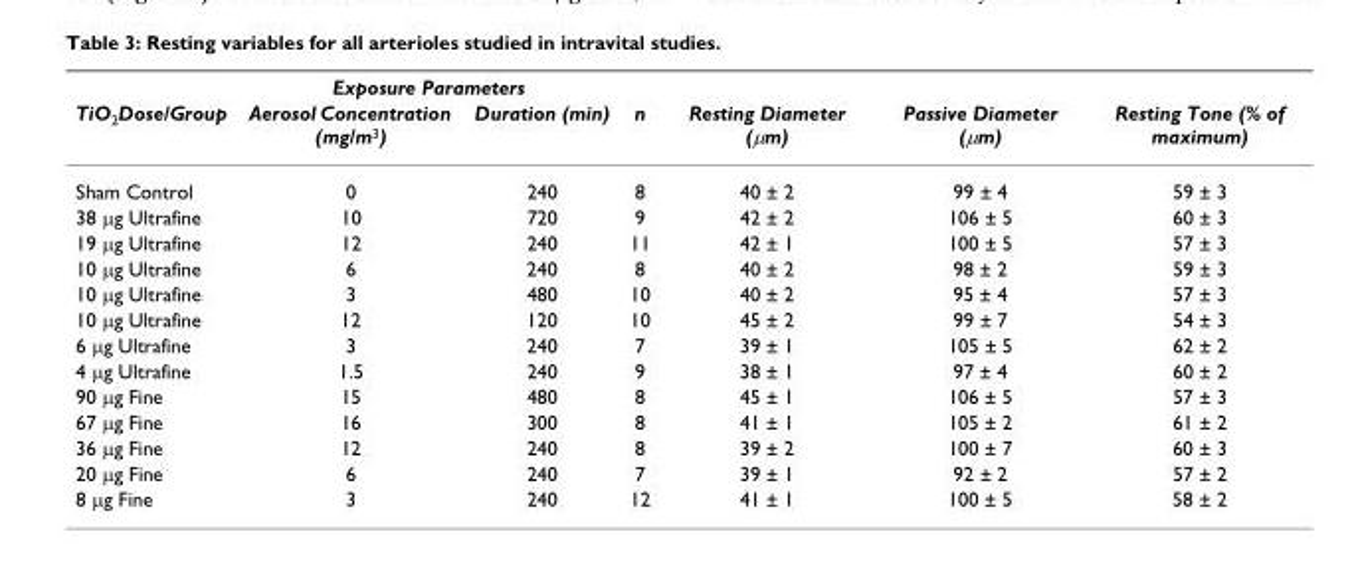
<table><thead><tr><td rowspan="2">TiO<sub>2</sub>Dose/Group</td><td colspan="2">Exposure Parameters</td><td rowspan="2">n</td><td rowspan="2">Resting Diameter (µm)</td><td rowspan="2">Passive Diameter (µm)</td><td rowspan="2">Resting Tone (% of maximum)</td></tr><tr><td>Aerosol Concentration (mg/m<sup>3</sup>)</td><td>Duration (min)</td></tr></thead><tbody><tr><td>Sham Control</td><td>0</td><td>240</td><td>8</td><td>40 ± 2</td><td>99 ± 4</td><td>59 ± 3</td></tr><tr><td>38 µg Ultrafine</td><td>10</td><td>720</td><td>9</td><td>42 ± 2</td><td>106 ± 5</td><td>60 ± 3</td></tr><tr><td>19 µg Ultrafine</td><td>12</td><td>240</td><td>11</td><td>42 ± 1</td><td>100 ± 5</td><td>57 ± 3</td></tr><tr><td>10 µg Ultrafine</td><td>6</td><td>240</td><td>8</td><td>40 ± 2</td><td>98 ± 2</td><td>59 ± 3</td></tr><tr><td>10 µg Ultrafine</td><td>3</td><td>480</td><td>10</td><td>40 ± 2</td><td>95 ± 4</td><td>57 ± 3</td></tr><tr><td>10 µg Ultrafine</td><td>12</td><td>120</td><td>10</td><td>45 ± 2</td><td>99 ± 7</td><td>54 ± 3</td></tr><tr><td>6 µg Ultrafine</td><td>3</td><td>240</td><td>7</td><td>39 ± 1</td><td>105 ± 5</td><td>62 ± 2</td></tr><tr><td>4 µg Ultrafine</td><td>1.5</td><td>240</td><td>9</td><td>38 ± 1</td><td>97 ± 4</td><td>60 ± 2</td></tr><tr><td>90 µg Fine</td><td>15</td><td>480</td><td>8</td><td>45 ± 1</td><td>106 ± 5</td><td>57 ± 3</td></tr><tr><td>67 µg Fine</td><td>16</td><td>300</td><td>8</td><td>41 ± 1</td><td>105 ± 2</td><td>61 ± 2</td></tr><tr><td>36 µg Fine</td><td>12</td><td>240</td><td>8</td><td>39 ± 2</td><td>100 ± 7</td><td>60 ± 3</td></tr><tr><td>20 µg Fine</td><td>6</td><td>240</td><td>7</td><td>39 ± 1</td><td>92 ± 2</td><td>57 ± 2</td></tr><tr><td>8 µg Fine</td><td>3</td><td>240</td><td>12</td><td>41 ± 1</td><td>100 ± 5</td><td>58 ± 2</td></tr></tbody></table>